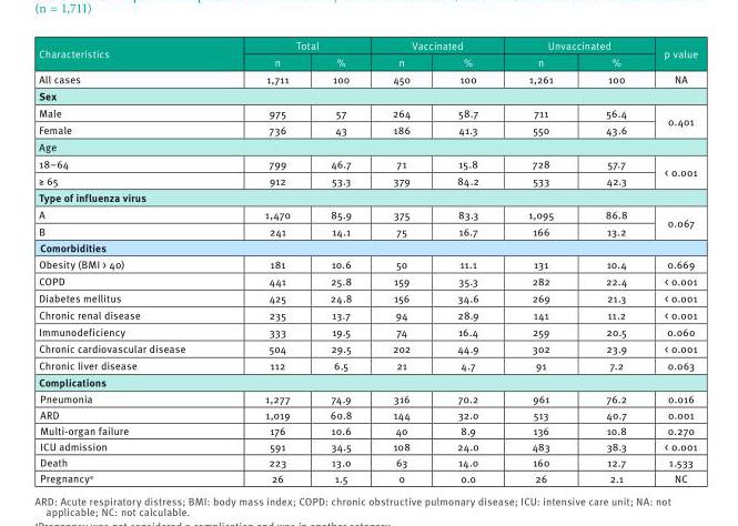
<table><thead><tr><td rowspan="2">Characteristics</td><td colspan="2">Total</td><td colspan="2">Vaccinated</td><td colspan="2">Unvaccinated</td><td rowspan="2">p value</td></tr><tr><td>n</td><td>%</td><td>n</td><td>%</td><td>n</td><td>%</td></tr></thead><tbody><tr><td>All cases</td><td>1,711</td><td>100</td><td>450</td><td>100</td><td>1,261</td><td>100</td><td>NA</td></tr><tr><td colspan="8">Sex</td></tr><tr><td>Male</td><td>975</td><td>57</td><td>264</td><td>58.7</td><td>711</td><td>56.4</td><td rowspan="2">0.401</td></tr><tr><td>Female</td><td>736</td><td>43</td><td>186</td><td>41.3</td><td>550</td><td>43.6</td></tr><tr><td colspan="8">Age</td></tr><tr><td>18–64</td><td>799</td><td>46.7</td><td>71</td><td>15.8</td><td>728</td><td>57.7</td><td rowspan="2">&lt; 0.001</td></tr><tr><td>≥ 65</td><td>912</td><td>53.3</td><td>379</td><td>84.2</td><td>533</td><td>42.3</td></tr><tr><td colspan="8">Type of influenza virus</td></tr><tr><td>A</td><td>1,470</td><td>85.9</td><td>375</td><td>83.3</td><td>1,095</td><td>86.8</td><td rowspan="2">0.067</td></tr><tr><td>B</td><td>241</td><td>14.1</td><td>75</td><td>16.7</td><td>166</td><td>13.2</td></tr><tr><td colspan="8">Comorbidities</td></tr><tr><td>Obesity (BMI &gt; 40)</td><td>181</td><td>10.6</td><td>50</td><td>11.1</td><td>131</td><td>10.4</td><td>0.669</td></tr><tr><td>COPD</td><td>441</td><td>25.8</td><td>159</td><td>35.3</td><td>282</td><td>22.4</td><td>&lt; 0.001</td></tr><tr><td>Diabetes mellitus</td><td>425</td><td>24.8</td><td>156</td><td>34.6</td><td>269</td><td>21.3</td><td>&lt; 0.001</td></tr><tr><td>Chronic renal disease</td><td>235</td><td>13.7</td><td>94</td><td>28.9</td><td>141</td><td>11.2</td><td>&lt; 0.001</td></tr><tr><td>Immunodeficiency</td><td>333</td><td>19.5</td><td>74</td><td>16.4</td><td>259</td><td>20.5</td><td>0.060</td></tr><tr><td>Chronic cardiovascular disease</td><td>504</td><td>29.5</td><td>202</td><td>44.9</td><td>302</td><td>23.9</td><td>&lt; 0.001</td></tr><tr><td>Chronic liver disease</td><td>112</td><td>6.5</td><td>21</td><td>4.7</td><td>91</td><td>7.2</td><td>0.063</td></tr><tr><td colspan="8">Complications</td></tr><tr><td>Pneumonia</td><td>1,277</td><td>74.9</td><td>316</td><td>70.2</td><td>961</td><td>76.2</td><td>0.016</td></tr><tr><td>ARD</td><td>1,019</td><td>60.8</td><td>144</td><td>32.0</td><td>513</td><td>40.7</td><td>0.001</td></tr><tr><td>Multi-organ failure</td><td>176</td><td>10.6</td><td>40</td><td>8.9</td><td>136</td><td>10.8</td><td>0.270</td></tr><tr><td>ICU admission</td><td>591</td><td>34.5</td><td>108</td><td>24.0</td><td>483</td><td>38.3</td><td>&lt; 0.001</td></tr><tr><td>Death</td><td>223</td><td>13.0</td><td>63</td><td>14.0</td><td>160</td><td>12.7</td><td>1.533</td></tr><tr><td>Pregnancy<sup>a</sup></td><td>26</td><td>1.5</td><td>0</td><td>0.0</td><td>26</td><td>2.1</td><td>NC</td></tr></tbody></table>